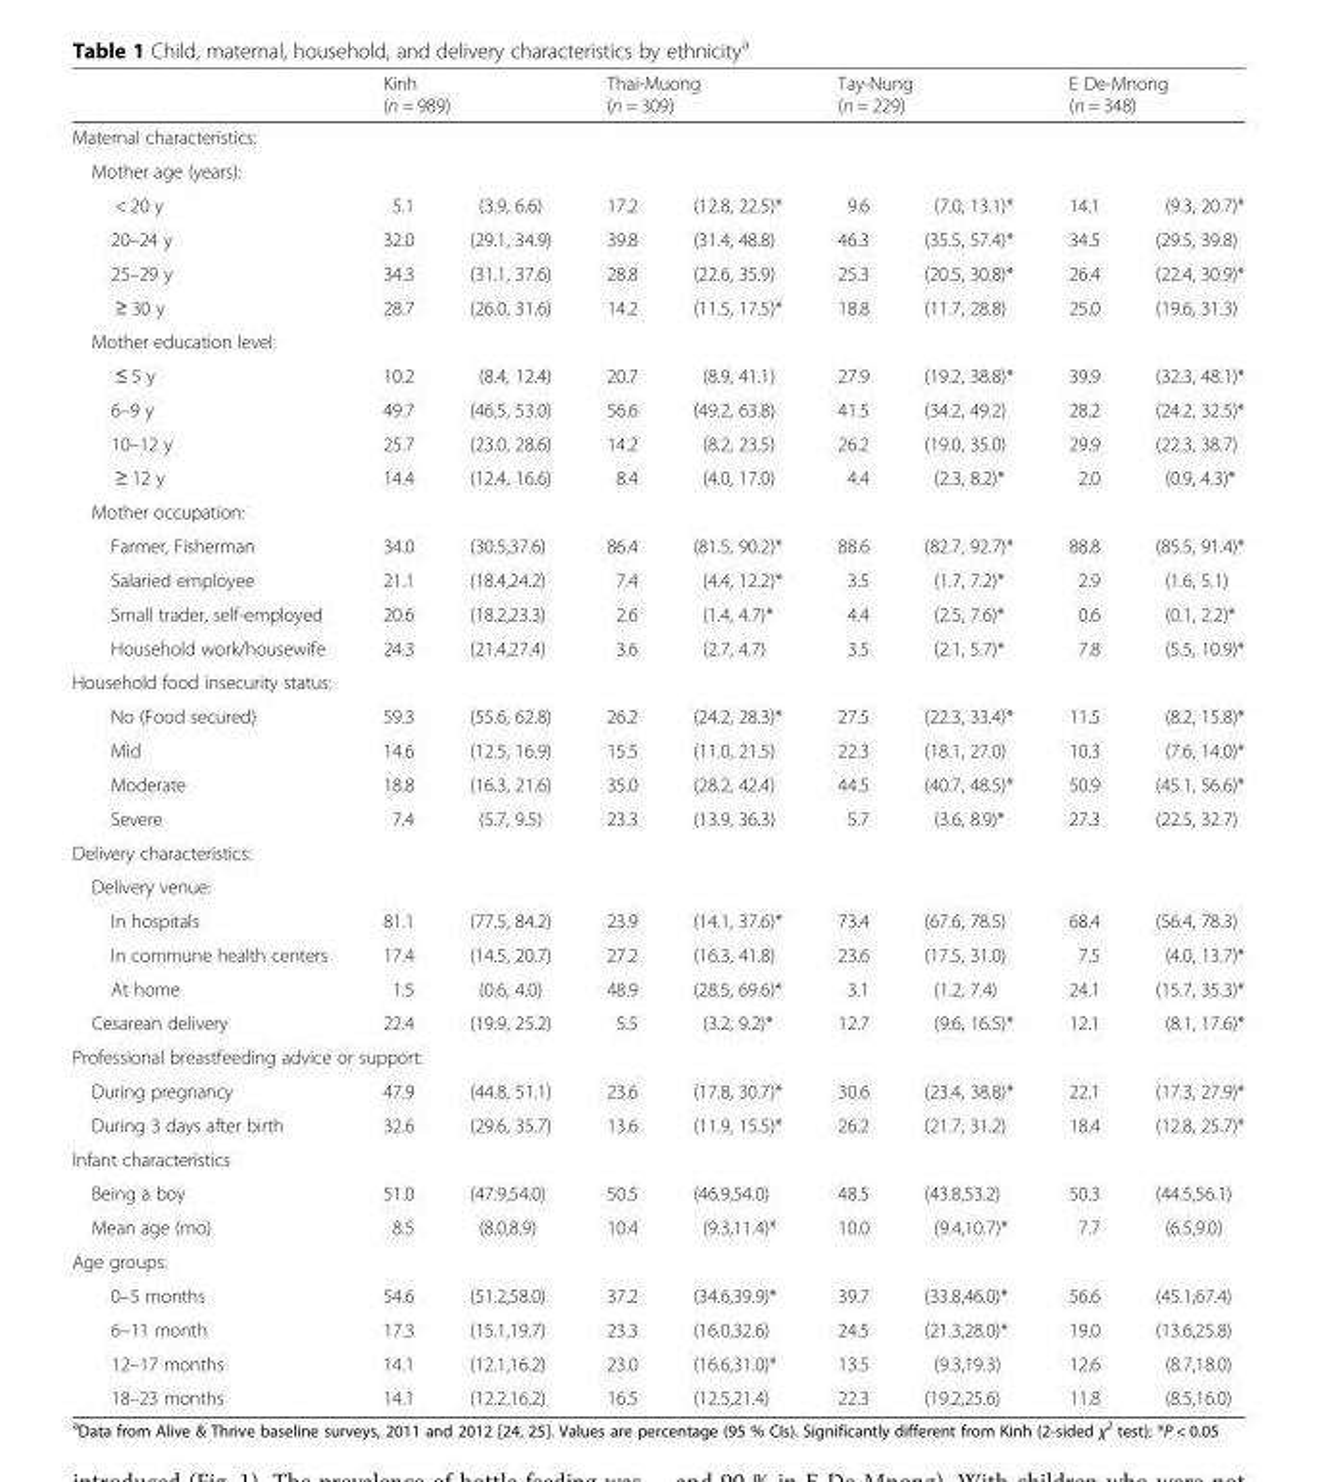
<table><thead><tr><td></td><td colspan="2">Kinh (n = 989)</td><td colspan="2">Thai-Muong (n = 309)</td><td colspan="2">Tay-Nung (n = 229)</td><td colspan="2">E De-Mnong (n = 348)</td></tr><tr><td rowspan="2" colspan="9">Maternal characteristics: Mother age (years):</td></tr><tr></tr><tr><td>&lt; 20 y</td><td>5.1</td><td>(3.9, 6.6)</td><td>17.2</td><td>(12.8, 22.5)*</td><td>9.6</td><td>(7.0, 13.1)*</td><td>14.1</td><td>(9.3, 20.7)*</td></tr></thead><tbody><tr><td>20–24 y</td><td>32.0</td><td>(29.1, 34.9)</td><td>39.8</td><td>(31.4, 48.8)</td><td>46.3</td><td>(35.5, 57.4)*</td><td>34.5</td><td>(29.5, 39.8)</td></tr><tr><td>25–29 y</td><td>34.3</td><td>(31.1, 37.6)</td><td>28.8</td><td>(22.6, 35.9)</td><td>25.3</td><td>(20.5, 30.8)*</td><td>26.4</td><td>(22.4, 30.9)*</td></tr><tr><td>≥ 30 y</td><td>28.7</td><td>(26.0, 31.6)</td><td>14.2</td><td>(11.5, 17.5)*</td><td>18.8</td><td>(11.7, 28.8)</td><td>25.0</td><td>(19.6, 31.3)</td></tr><tr><td colspan="9">Mother education level:</td></tr><tr><td>≤ 5 y</td><td>10.2</td><td>(8.4, 12.4)</td><td>20.7</td><td>(8.9, 41.1)</td><td>27.9</td><td>(19.2, 38.8)*</td><td>39.9</td><td>(32.3, 48.1)*</td></tr><tr><td>6–9 y</td><td>49.7</td><td>(46.5, 53.0)</td><td>56.6</td><td>(49.2, 63.8)</td><td>41.5</td><td>(34.2, 49.2)</td><td>28.2</td><td>(24.2, 32.5)*</td></tr><tr><td>10–12 y</td><td>25.7</td><td>(23.0, 28.6)</td><td>14.2</td><td>(8.2, 23.5)</td><td>26.2</td><td>(19.0, 35.0)</td><td>29.9</td><td>(22.3, 38.7)</td></tr><tr><td>≥ 12 y</td><td>14.4</td><td>(12.4, 16.6)</td><td>8.4</td><td>(4.0, 17.0)</td><td>4.4</td><td>(2.3, 8.2)*</td><td>2.0</td><td>(0.9, 4.3)*</td></tr><tr><td colspan="9">Mother occupation:</td></tr><tr><td>Farmer, Fisherman</td><td>34.0</td><td>(30.5,37.6)</td><td>86.4</td><td>(81.5, 90.2)*</td><td>88.6</td><td>(82.7, 92.7)*</td><td>88.8</td><td>(85.5, 91.4)*</td></tr><tr><td>Salaried employee</td><td>21.1</td><td>(18.4,24.2)</td><td>7.4</td><td>(4.4, 12.2)*</td><td>3.5</td><td>(1.7, 7.2)*</td><td>2.9</td><td>(1.6, 5.1)</td></tr><tr><td>Small trader, self-employed</td><td>20.6</td><td>(18.2,23.3)</td><td>2.6</td><td>(1.4, 4.7)*</td><td>4.4</td><td>(2.5, 7.6)*</td><td>0.6</td><td>(0.1, 2.2)*</td></tr><tr><td>Household work/housewife</td><td>24.3</td><td>(21.4,27.4)</td><td>3.6</td><td>(2.7, 4.7)</td><td>3.5</td><td>(2.1, 5.7)*</td><td>7.8</td><td>(5.5, 10.9)*</td></tr><tr><td colspan="9">Household food insecurity status:</td></tr><tr><td>No (Food secured)</td><td>59.3</td><td>(55.6, 62.8)</td><td>26.2</td><td>(24.2, 28.3)*</td><td>27.5</td><td>(22.3, 33.4)*</td><td>11.5</td><td>(8.2, 15.8)*</td></tr><tr><td>Mid</td><td>14.6</td><td>(12.5, 16.9)</td><td>15.5</td><td>(11.0, 21.5)</td><td>22.3</td><td>(18.1, 27.0)</td><td>10.3</td><td>(7.6, 14.0)*</td></tr><tr><td>Moderate</td><td>18.8</td><td>(16.3, 21.6)</td><td>35.0</td><td>(28.2, 42.4)</td><td>44.5</td><td>(40.7, 48.5)*</td><td>50.9</td><td>(45.1, 56.6)*</td></tr><tr><td>Severe</td><td>7.4</td><td>(5.7, 9.5)</td><td>23.3</td><td>(13.9, 36.3)</td><td>5.7</td><td>(3.6, 8.9)*</td><td>27.3</td><td>(22.5, 32.7)</td></tr><tr><td colspan="9">Delivery characteristics:</td></tr><tr><td colspan="9">Delivery venue:</td></tr><tr><td>In hospitals</td><td>81.1</td><td>(77.5, 84.2)</td><td>23.9</td><td>(14.1, 37.6)*</td><td>73.4</td><td>(67.6, 78.5)</td><td>68.4</td><td>(56.4, 78.3)</td></tr><tr><td>In commune health centers</td><td>17.4</td><td>(14.5, 20.7)</td><td>27.2</td><td>(16.3, 41.8)</td><td>23.6</td><td>(17.5, 31.0)</td><td>7.5</td><td>(4.0, 13.7)*</td></tr><tr><td>At home</td><td>1.5</td><td>(0.6, 4.0)</td><td>48.9</td><td>(28.5, 69.6)*</td><td>3.1</td><td>(1.2, 7.4)</td><td>24.1</td><td>(15.7, 35.3)*</td></tr><tr><td>Cesarean delivery</td><td>22.4</td><td>(19.9, 25.2)</td><td>5.5</td><td>(3.2, 9.2)*</td><td>12.7</td><td>(9.6, 16.5)*</td><td>12.1</td><td>(8.1, 17.6)*</td></tr><tr><td colspan="9">Professional breastfeeding advice or support:</td></tr><tr><td>During pregnancy</td><td>47.9</td><td>(44.8, 51.1)</td><td>23.6</td><td>(17.8, 30.7)*</td><td>30.6</td><td>(23.4, 38.8)*</td><td>22.1</td><td>(17.3, 27.9)*</td></tr><tr><td>During 3 days after birth</td><td>32.6</td><td>(29.6, 35.7)</td><td>13.6</td><td>(11.9, 15.5)*</td><td>26.2</td><td>(21.7, 31.2)</td><td>18.4</td><td>(12.8, 25.7)*</td></tr><tr><td colspan="9">Infant characteristics</td></tr><tr><td>Being a boy</td><td>51.0</td><td>(47.9,54.0)</td><td>50.5</td><td>(46.9,54.0)</td><td>48.5</td><td>(43.8,53.2)</td><td>50.3</td><td>(44.5,56.1)</td></tr><tr><td>Mean age (mo)</td><td>8.5</td><td>(8.0,8.9)</td><td>10.4</td><td>(9.3,11.4)*</td><td>10.0</td><td>(9.4,10.7)*</td><td>7.7</td><td>(6.5,9.0)</td></tr><tr><td colspan="9">Age groups:</td></tr><tr><td>0–5 months</td><td>54.6</td><td>(51.2,58.0)</td><td>37.2</td><td>(34.6,39.9)*</td><td>39.7</td><td>(33.8,46.0)*</td><td>56.6</td><td>(45.1,67.4)</td></tr><tr><td>6–11 month</td><td>17.3</td><td>(15.1,19.7)</td><td>23.3</td><td>(16.0,32.6)</td><td>24.5</td><td>(21.3,28.0)*</td><td>19.0</td><td>(13.6,25.8)</td></tr><tr><td>12–17 months</td><td>14.1</td><td>(12.1,16.2)</td><td>23.0</td><td>(16.6,31.0)*</td><td>13.5</td><td>(9.3,19.3)</td><td>12.6</td><td>(8.7,18.0)</td></tr><tr><td>18–23 months</td><td>14.1</td><td>(12.2,16.2)</td><td>16.5</td><td>(12.5,21.4)</td><td>22.3</td><td>(19.2,25.6)</td><td>11.8</td><td>(8.5,16.0)</td></tr></tbody></table>